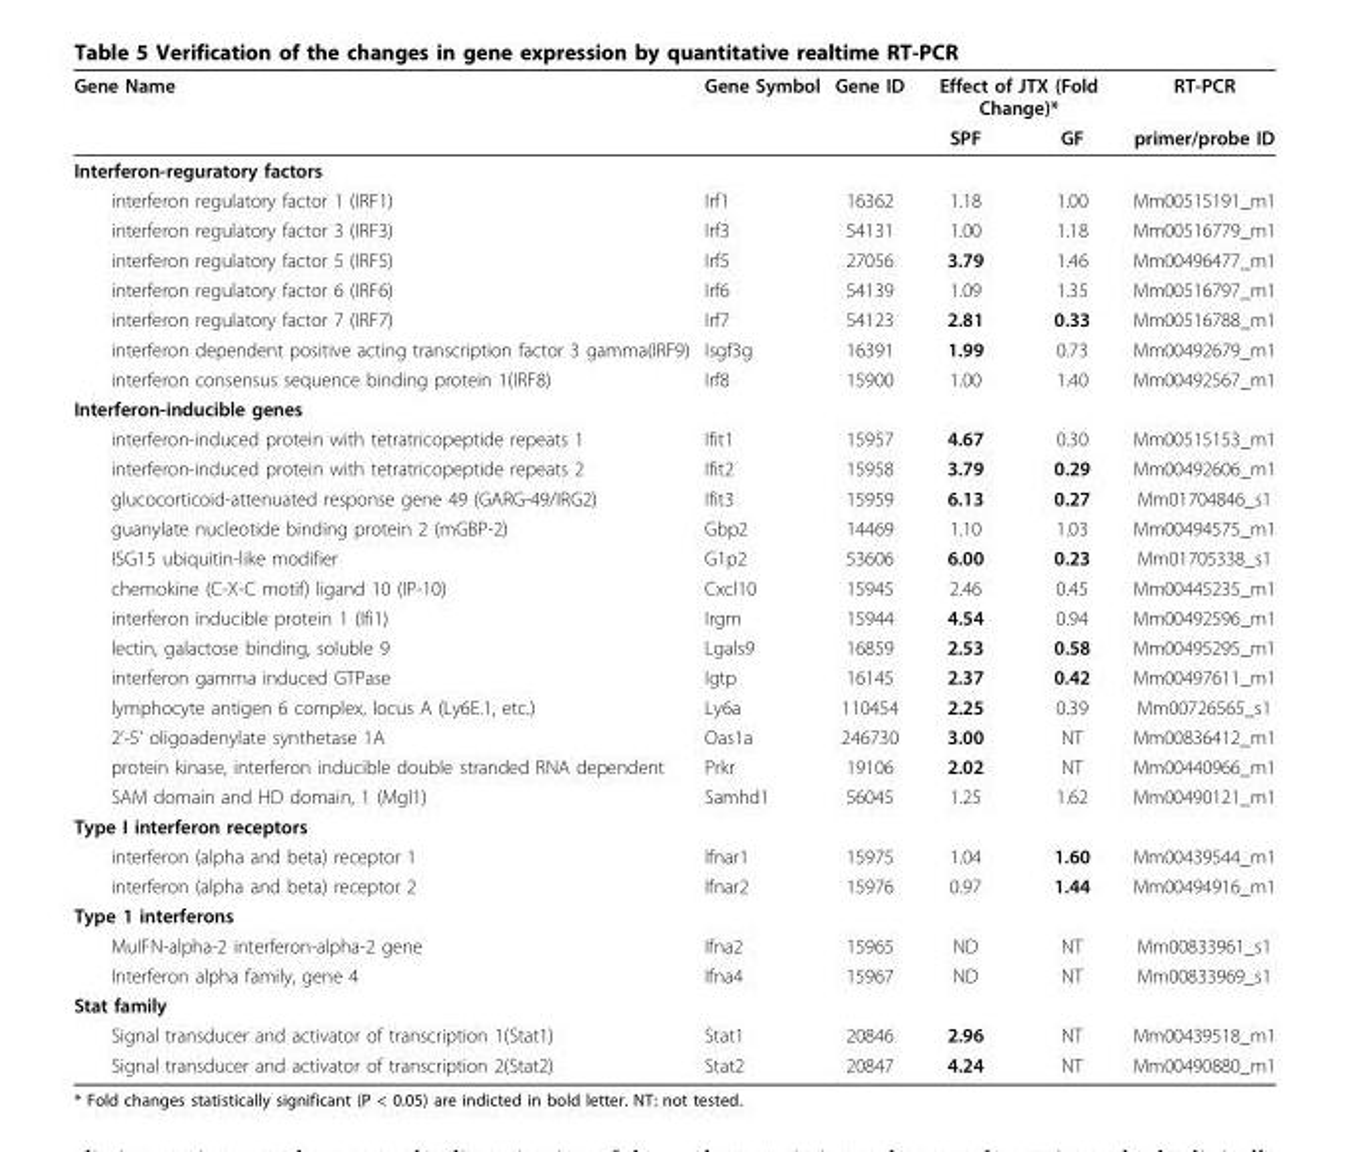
<table><thead><tr><td rowspan="2">Gene Name</td><td rowspan="2">Gene Symbol</td><td rowspan="2">Gene ID</td><td colspan="2">Effect of JTX (Fold Change)*</td><td rowspan="2">RT-PCR primer/probe ID</td></tr><tr><td>SPF</td><td>GF</td></tr></thead><tbody><tr><td colspan="6">Interferon-reguratory factors</td></tr><tr><td>interferon regulatory factor 1 (IRF1)</td><td>Irf1</td><td>16362</td><td>1.18</td><td>1.00</td><td>Mm00515191_m1</td></tr><tr><td>interferon regulatory factor 3 (IRF3)</td><td>Irf3</td><td>54131</td><td>1.00</td><td>1.18</td><td>Mm00516779_m1</td></tr><tr><td>interferon regulatory factor 5 (IRF5)</td><td>Irf5</td><td>27056</td><td>3.79</td><td>1.46</td><td>Mm00496477_m1</td></tr><tr><td>interferon regulatory factor 6 (IRF6)</td><td>Irf6</td><td>54139</td><td>1.09</td><td>1.35</td><td>Mm00516797_m1</td></tr><tr><td>interferon regulatory factor 7 (IRF7)</td><td>Irf7</td><td>54123</td><td>2.81</td><td>0.33</td><td>Mm00516788_m1</td></tr><tr><td>interferon dependent positive acting transcription factor 3 gamma(IRF9)</td><td>Isgf3g</td><td>16391</td><td>1.99</td><td>0.73</td><td>Mm00492679_m1</td></tr><tr><td>interferon consensus sequence binding protein 1(IRF8)</td><td>Irf8</td><td>15900</td><td>1.00</td><td>1.40</td><td>Mm00492567_m1</td></tr><tr><td colspan="6">Interferon-inducible genes</td></tr><tr><td>interferon-induced protein with tetratricopeptide repeats 1</td><td>Ifit1</td><td>15957</td><td>4.67</td><td>0.30</td><td>Mm00515153_m1</td></tr><tr><td>interferon-induced protein with tetratricopeptide repeats 2</td><td>Ifit2</td><td>15958</td><td>3.79</td><td>0.29</td><td>Mm00492606_m1</td></tr><tr><td>glucocorticoid-attenuated response gene 49 (GARG-49/IRG2)</td><td>Ifit3</td><td>15959</td><td>6.13</td><td>0.27</td><td>Mm01704846_s1</td></tr><tr><td>guanylate nucleotide binding protein 2 (mGBP-2)</td><td>Gbp2</td><td>14469</td><td>1.10</td><td>1.03</td><td>Mm00494575_m1</td></tr><tr><td>ISG15 ubiquitin-like modifier</td><td>G1p2</td><td>53606</td><td>6.00</td><td>0.23</td><td>Mm01705338_s1</td></tr><tr><td>chemokine (C-X-C motif) ligand 10 (IP-10)</td><td>Cxcl10</td><td>15945</td><td>2.46</td><td>0.45</td><td>Mm00445235_m1</td></tr><tr><td>interferon inducible protein 1 (Ifi1)</td><td>Irgm</td><td>15944</td><td>4.54</td><td>0.94</td><td>Mm00492596_m1</td></tr><tr><td>lectin, galactose binding, soluble 9</td><td>Lgals9</td><td>16859</td><td>2.53</td><td>0.58</td><td>Mm00495295_m1</td></tr><tr><td>interferon gamma induced GTPase</td><td>Igtp</td><td>16145</td><td>2.37</td><td>0.42</td><td>Mm00497611_m1</td></tr><tr><td>lymphocyte antigen 6 complex, locus A (Ly6E.1, etc.)</td><td>Ly6a</td><td>110454</td><td>2.25</td><td>0.39</td><td>Mm00726565_s1</td></tr><tr><td>2’-5’ oligoadenylate synthetase 1A</td><td>Oas1a</td><td>246730</td><td>3.00</td><td>NT</td><td>Mm00836412_m1</td></tr><tr><td>protein kinase, interferon inducible double stranded RNA dependent</td><td>Prkr</td><td>19106</td><td>2.02</td><td>NT</td><td>Mm00440966_m1</td></tr><tr><td>SAM domain and HD domain, 1 (Mgl1)</td><td>Samhd1</td><td>56045</td><td>1.25</td><td>1.62</td><td>Mm00490121_m1</td></tr><tr><td colspan="6">Type I interferon receptors</td></tr><tr><td>interferon (alpha and beta) receptor 1</td><td>Ifnar1</td><td>15975</td><td>1.04</td><td>1.60</td><td>Mm00439544_m1</td></tr><tr><td>interferon (alpha and beta) receptor 2</td><td>Ifnar2</td><td>15976</td><td>0.97</td><td>1.44</td><td>Mm00494916_m1</td></tr><tr><td colspan="6">Type 1 interferons</td></tr><tr><td>MuIFN-alpha-2 interferon-alpha-2 gene</td><td>Ifna2</td><td>15965</td><td>ND</td><td>NT</td><td>Mm00833961_s1</td></tr><tr><td>Interferon alpha family, gene 4</td><td>Ifna4</td><td>15967</td><td>ND</td><td>NT</td><td>Mm00833969_s1</td></tr><tr><td colspan="6">Stat family</td></tr><tr><td>Signal transducer and activator of transcription 1(Stat1)</td><td>Stat1</td><td>20846</td><td>2.96</td><td>NT</td><td>Mm00439518_m1</td></tr><tr><td>Signal transducer and activator of transcription 2(Stat2)</td><td>Stat2</td><td>20847</td><td>4.24</td><td>NT</td><td>Mm00490880_m1</td></tr></tbody></table>